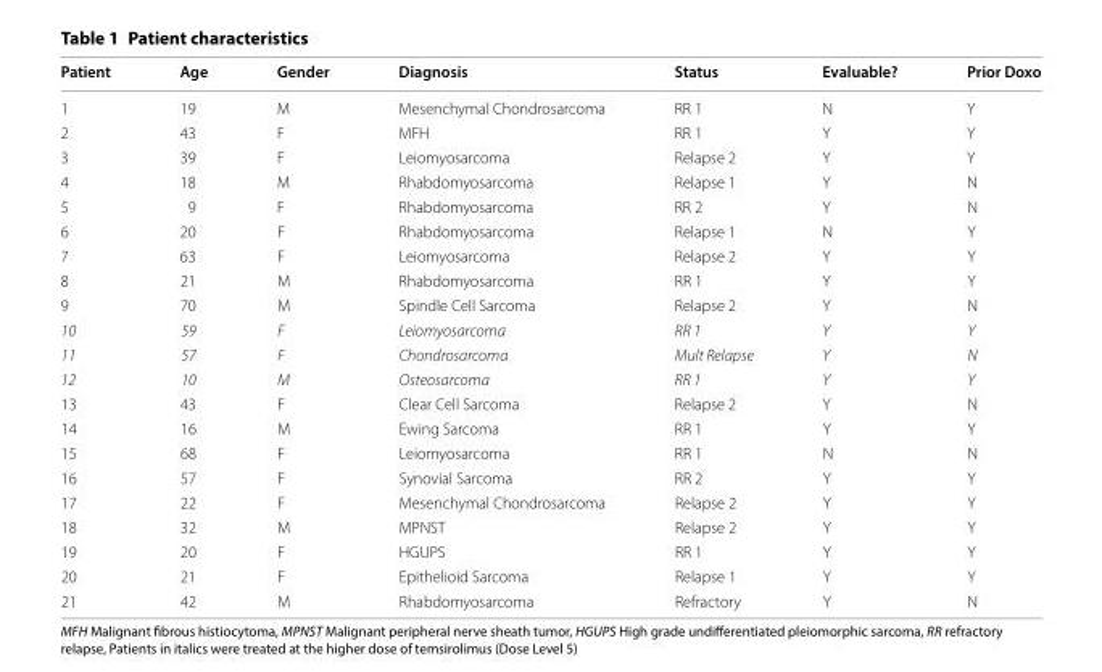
<table><thead><tr><td>Patient</td><td>Age</td><td>Gender</td><td>Diagnosis</td><td>Status</td><td>Evaluable?</td><td>Prior Doxo</td></tr></thead><tbody><tr><td>1</td><td>19</td><td>M</td><td>Mesenchymal Chondrosarcoma</td><td>RR 1</td><td>N</td><td>Y</td></tr><tr><td>2</td><td>43</td><td>F</td><td>MFH</td><td>RR 1</td><td>Y</td><td>Y</td></tr><tr><td>3</td><td>39</td><td>F</td><td>Leiomyosarcoma</td><td>Relapse 2</td><td>Y</td><td>Y</td></tr><tr><td>4</td><td>18</td><td>M</td><td>Rhabdomyosarcoma</td><td>Relapse 1</td><td>Y</td><td>N</td></tr><tr><td>5</td><td>9</td><td>F</td><td>Rhabdomyosarcoma</td><td>RR 2</td><td>Y</td><td>N</td></tr><tr><td>6</td><td>20</td><td>F</td><td>Rhabdomyosarcoma</td><td>Relapse 1</td><td>N</td><td>Y</td></tr><tr><td>7</td><td>63</td><td>F</td><td>Leiomyosarcoma</td><td>Relapse 2</td><td>Y</td><td>Y</td></tr><tr><td>8</td><td>21</td><td>M</td><td>Rhabdomyosarcoma</td><td>RR 1</td><td>Y</td><td>Y</td></tr><tr><td>9</td><td>70</td><td>M</td><td>Spindle Cell Sarcoma</td><td>Relapse 2</td><td>Y</td><td>N</td></tr><tr><td>10</td><td>59</td><td>F</td><td>Leiomyosarcoma</td><td>RR 1</td><td>Y</td><td>Y</td></tr><tr><td>11</td><td>57</td><td>F</td><td>Chondrosarcoma</td><td>Mult Relapse</td><td>Y</td><td>N</td></tr><tr><td>12</td><td>10</td><td>M</td><td>Osteosarcoma</td><td>RR 1</td><td>Y</td><td>Y</td></tr><tr><td>13</td><td>43</td><td>F</td><td>Clear Cell Sarcoma</td><td>Relapse 2</td><td>Y</td><td>N</td></tr><tr><td>14</td><td>16</td><td>M</td><td>Ewing Sarcoma</td><td>RR 1</td><td>Y</td><td>Y</td></tr><tr><td>15</td><td>68</td><td>F</td><td>Leiomyosarcoma</td><td>RR 1</td><td>N</td><td>N</td></tr><tr><td>16</td><td>57</td><td>F</td><td>Synovial Sarcoma</td><td>RR 2</td><td>Y</td><td>Y</td></tr><tr><td>17</td><td>22</td><td>F</td><td>Mesenchymal Chondrosarcoma</td><td>Relapse 2</td><td>Y</td><td>Y</td></tr><tr><td>18</td><td>32</td><td>M</td><td>MPNST</td><td>Relapse 2</td><td>Y</td><td>Y</td></tr><tr><td>19</td><td>20</td><td>F</td><td>HGUPS</td><td>RR 1</td><td>Y</td><td>Y</td></tr><tr><td>20</td><td>21</td><td>F</td><td>Epithelioid Sarcoma</td><td>Relapse 1</td><td>Y</td><td>Y</td></tr><tr><td>21</td><td>42</td><td>M</td><td>Rhabdomyosarcoma</td><td>Refractory</td><td>Y</td><td>N</td></tr></tbody></table>